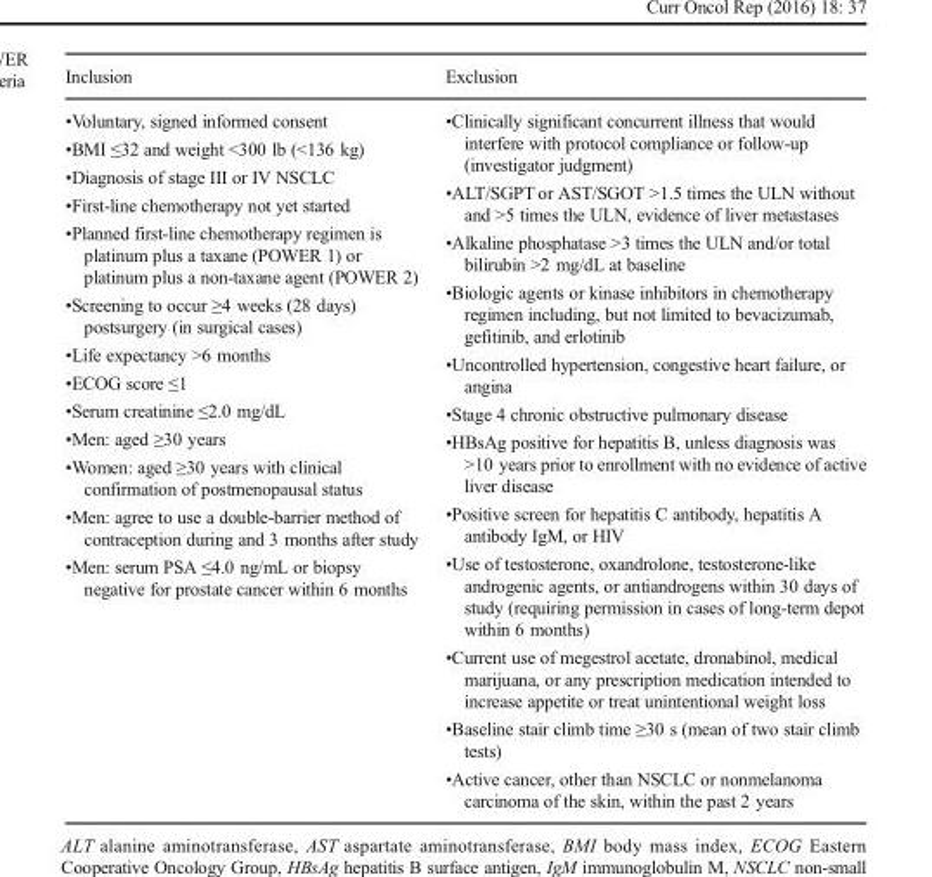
<table><thead><tr><td>Inclusion</td><td>Exclusion</td></tr></thead><tbody><tr><td>•Voluntary, signed informed consent •BMI ≤32 and weight &lt;300 lb (&lt;136 kg) •Diagnosis of stage III or IV NSCLC •First-line chemotherapy not yet started •Planned first-line chemotherapy regimen is platinum plus a taxane (POWER 1) or platinum plus a non-taxane agent (POWER 2) •Screening to occur ≥4 weeks (28 days) postsurgery (in surgical cases) •Life expectancy &gt;6 months •ECOG score ≤1 •Serum creatinine ≤2.0 mg/dL •Men: aged ≥30 years •Women: aged ≥30 years with clinical confirmation of postmenopausal status •Men: agree to use a double-barrier method of contraception during and 3 months after study •Men: serum PSA ≤4.0 ng/mL or biopsy negative for prostate cancer within 6 months</td><td>•Clinically significant concurrent illness that would interfere with protocol compliance or follow-up (investigator judgment) •ALT/SGPT or AST/SGOT &gt;1.5 times the ULN without and &gt;5 times the ULN, evidence of liver metastases •Alkaline phosphatase &gt;3 times the ULN and/or total bilirubin &gt;2 mg/dL at baseline •Biologic agents or kinase inhibitors in chemotherapy regimen including, but not limited to bevacizumab, gefitinib, and erlotinib •Uncontrolled hypertension, congestive heart failure, or angina •Stage 4 chronic obstructive pulmonary disease •HBsAg positive for hepatitis B, unless diagnosis was &gt;10 years prior to enrollment with no evidence of active liver disease •Positive screen for hepatitis C antibody, hepatitis A antibody IgM, or HIV •Use of testosterone, oxandrolone, testosterone-like androgenic agents, or antiandrogens within 30 days of study (requiring permission in cases of long-term depot within 6 months) •Current use of megestrol acetate, dronabinol, medical marijuana, or any prescription medication intended to increase appetite or treat unintentional weight loss •Baseline stair climb time ≥30 s (mean of two stair climb tests) •Active cancer, other than NSCLC or nonmelanoma carcinoma of the skin, within the past 2 years</td></tr></tbody></table>